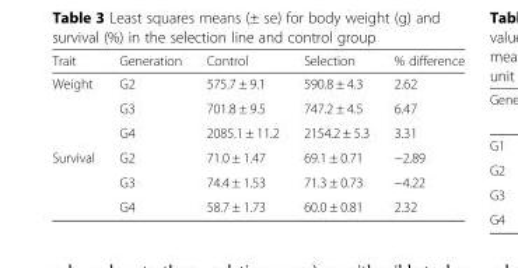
<table><thead><tr><td>Trait</td><td>Generation</td><td>Control</td><td>Selection</td><td>% difference</td></tr></thead><tbody><tr><td rowspan="3">Weight</td><td>G2</td><td>575.7 ± 9.1</td><td>590.8 ± 4.3</td><td>2.62</td></tr><tr><td>G3</td><td>701.8 ± 9.5</td><td>747.2 ± 4.5</td><td>6.47</td></tr><tr><td>G4</td><td>2085.1 ± 11.2</td><td>2154.2 ± 5.3</td><td>3.31</td></tr><tr><td rowspan="3">Survival</td><td>G2</td><td>71.0 ± 1.47</td><td>69.1 ± 0.71</td><td>−2.89</td></tr><tr><td>G3</td><td>74.4 ± 1.53</td><td>71.3 ± 0.73</td><td>−4.22</td></tr><tr><td>G4</td><td>58.7 ± 1.73</td><td>60.0 ± 0.81</td><td>2.32</td></tr></tbody></table>